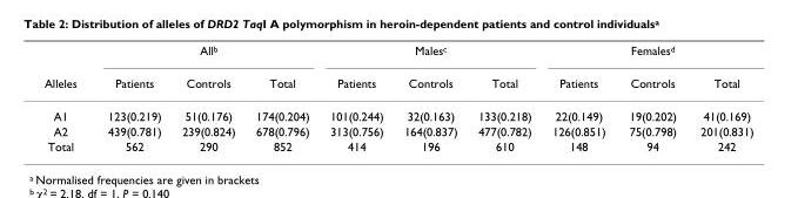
<table><thead><tr><td rowspan="2">Alleles</td><td colspan="3">All<sup>b</sup></td><td colspan="3">Males<sup>c</sup></td><td colspan="3">Females<sup>d</sup></td></tr><tr><td>Patients</td><td>Controls</td><td>Total</td><td>Patients</td><td>Controls</td><td>Total</td><td>Patients</td><td>Controls</td><td>Total</td></tr></thead><tbody><tr><td>A1</td><td>123(0.219)</td><td>51(0.176)</td><td>174(0.204)</td><td>101(0.244)</td><td>32(0.163)</td><td>133(0.218)</td><td>22(0.149)</td><td>19(0.202)</td><td>41(0.169)</td></tr><tr><td>A2</td><td>439(0.781)</td><td>239(0.824)</td><td>678(0.796)</td><td>313(0.756)</td><td>164(0.837)</td><td>477(0.782)</td><td>126(0.851)</td><td>75(0.798)</td><td>201(0.831)</td></tr><tr><td>Total</td><td>562</td><td>290</td><td>852</td><td>414</td><td>196</td><td>610</td><td>148</td><td>94</td><td>242</td></tr></tbody></table>